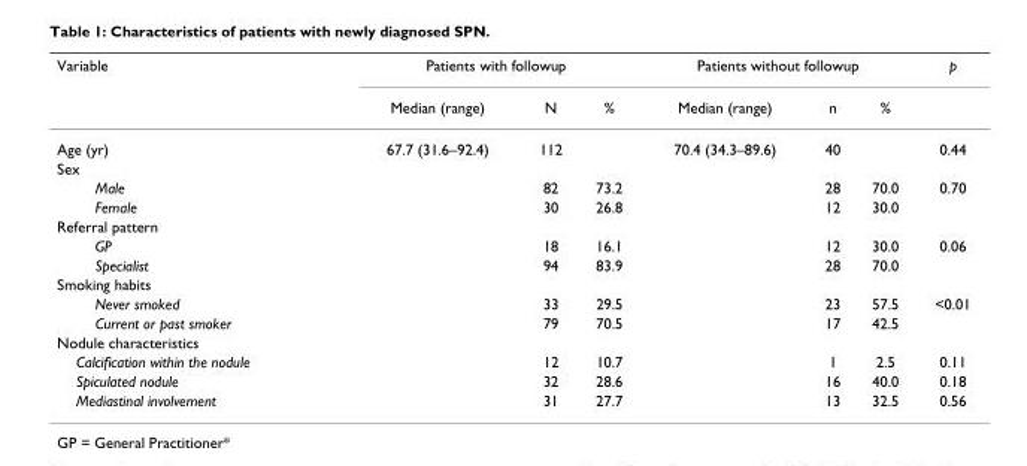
<table><thead><tr><td rowspan="2">Variable</td><td colspan="3">Patients with followup</td><td colspan="3">Patients without followup</td><td rowspan="2">p</td></tr><tr><td>Median (range)</td><td>N</td><td>%</td><td>Median (range)</td><td>n</td><td>%</td></tr></thead><tbody><tr><td>Age (yr)</td><td>67.7 (31.6–92.4)</td><td>112</td><td></td><td>70.4 (34.3–89.6)</td><td>40</td><td></td><td>0.44</td></tr><tr><td colspan="8">Sex</td></tr><tr><td>Male</td><td></td><td>82</td><td>73.2</td><td></td><td>28</td><td>70.0</td><td>0.70</td></tr><tr><td>Female</td><td></td><td>30</td><td>26.8</td><td></td><td>12</td><td>30.0</td><td></td></tr><tr><td colspan="8">Referral pattern</td></tr><tr><td>GP</td><td></td><td>18</td><td>16.1</td><td></td><td>12</td><td>30.0</td><td>0.06</td></tr><tr><td>Specialist</td><td></td><td>94</td><td>83.9</td><td></td><td>28</td><td>70.0</td><td></td></tr><tr><td colspan="8">Smoking habits</td></tr><tr><td>Never smoked</td><td></td><td>33</td><td>29.5</td><td></td><td>23</td><td>57.5</td><td>&lt;0.01</td></tr><tr><td>Current or past smoker</td><td></td><td>79</td><td>70.5</td><td></td><td>17</td><td>42.5</td><td></td></tr><tr><td colspan="8">Nodule characteristics</td></tr><tr><td>Calcification within the nodule</td><td></td><td>12</td><td>10.7</td><td></td><td>1</td><td>2.5</td><td>0.11</td></tr><tr><td>Spiculated nodule</td><td></td><td>32</td><td>28.6</td><td></td><td>16</td><td>40.0</td><td>0.18</td></tr><tr><td>Mediastinal involvement</td><td></td><td>31</td><td>27.7</td><td></td><td>13</td><td>32.5</td><td>0.56</td></tr></tbody></table>